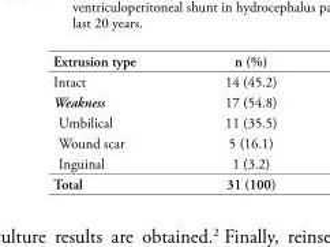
<table><thead><tr><td>Extrusion type</td><td>n (%)</td></tr></thead><tbody><tr><td>Intact</td><td>14 (45.2)</td></tr><tr><td>Weakness</td><td>17 (54.8)</td></tr><tr><td>Umbilical</td><td>11 (35.5)</td></tr><tr><td>Wound scar</td><td>5 (16.1)</td></tr><tr><td>Inguinal</td><td>1 (3.2)</td></tr><tr><td>Total</td><td>31 (100)</td></tr></tbody></table>